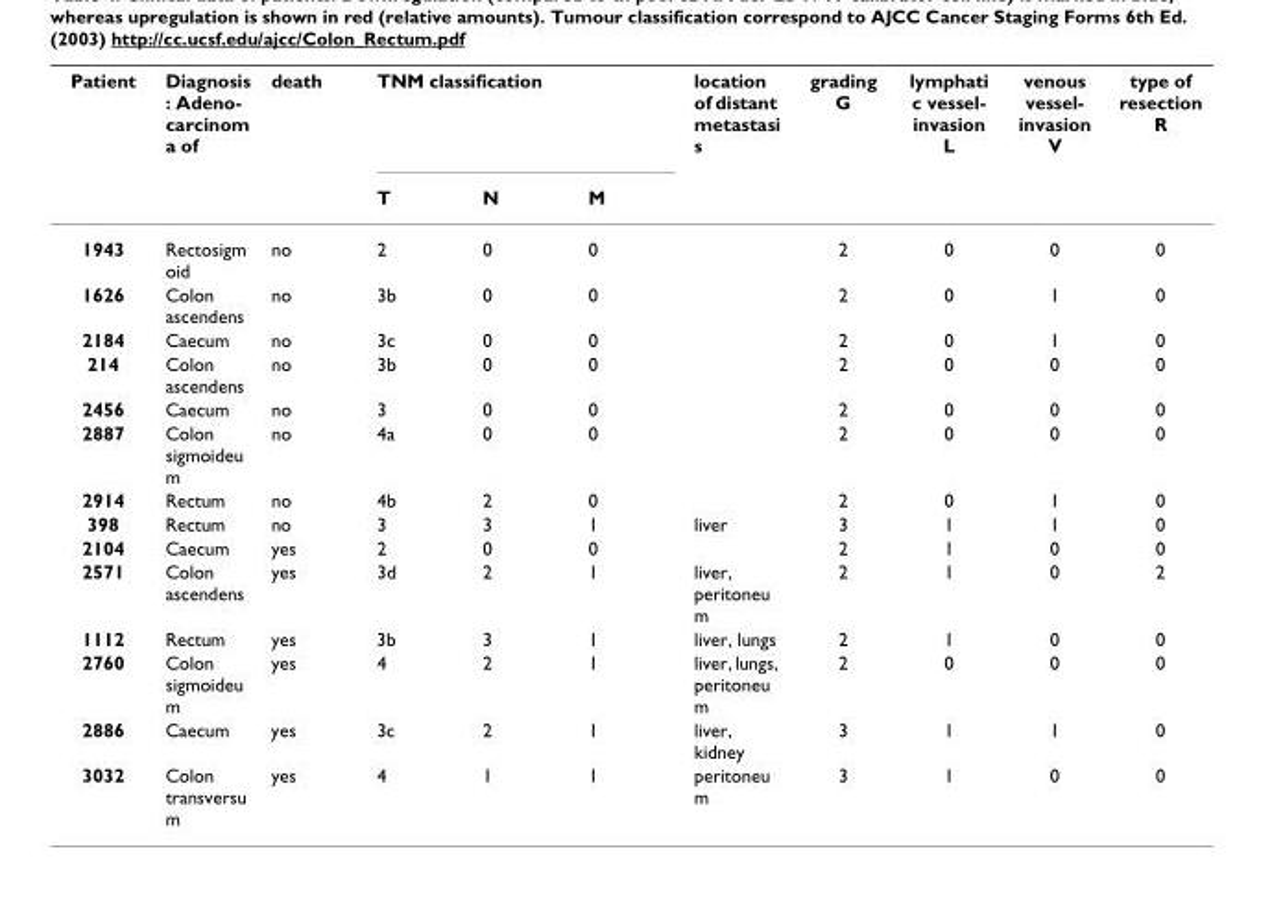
<table><thead><tr><td rowspan="2">Patient</td><td rowspan="2">Diagnosis : Adeno- carcinom a of</td><td rowspan="2">death</td><td colspan="3">TNM classification</td><td rowspan="2">location of distant metastasi s</td><td rowspan="2">grading G</td><td rowspan="2">lymphati c vessel- invasion L</td><td rowspan="2">venous vessel- invasion V</td><td rowspan="2">type of resection R</td></tr><tr><td>T</td><td>N</td><td>M</td></tr></thead><tbody><tr><td>1943</td><td>Rectosigm oid</td><td>no</td><td>2</td><td>0</td><td>0</td><td></td><td>2</td><td>0</td><td>0</td><td>0</td></tr><tr><td>1626</td><td>Colon ascendens</td><td>no</td><td>3b</td><td>0</td><td>0</td><td></td><td>2</td><td>0</td><td>1</td><td>0</td></tr><tr><td>2184</td><td>Caecum</td><td>no</td><td>3c</td><td>0</td><td>0</td><td></td><td>2</td><td>0</td><td>1</td><td>0</td></tr><tr><td>214</td><td>Colon ascendens</td><td>no</td><td>3b</td><td>0</td><td>0</td><td></td><td>2</td><td>0</td><td>0</td><td>0</td></tr><tr><td>2456</td><td>Caecum</td><td>no</td><td>3</td><td>0</td><td>0</td><td></td><td>2</td><td>0</td><td>0</td><td>0</td></tr><tr><td>2887</td><td>Colon sigmoideu m</td><td>no</td><td>4a</td><td>0</td><td>0</td><td></td><td>2</td><td>0</td><td>0</td><td>0</td></tr><tr><td>2914</td><td>Rectum</td><td>no</td><td>4b</td><td>2</td><td>0</td><td></td><td>2</td><td>0</td><td>1</td><td>0</td></tr><tr><td>398</td><td>Rectum</td><td>no</td><td>3</td><td>3</td><td>1</td><td>liver</td><td>3</td><td>1</td><td>1</td><td>0</td></tr><tr><td>2104</td><td>Caecum</td><td>yes</td><td>2</td><td>0</td><td>0</td><td></td><td>2</td><td>1</td><td>0</td><td>0</td></tr><tr><td>2571</td><td>Colon ascendens</td><td>yes</td><td>3d</td><td>2</td><td>1</td><td>liver, peritoneu m</td><td>2</td><td>1</td><td>0</td><td>2</td></tr><tr><td>1112</td><td>Rectum</td><td>yes</td><td>3b</td><td>3</td><td>1</td><td>liver, lungs</td><td>2</td><td>1</td><td>0</td><td>0</td></tr><tr><td>2760</td><td>Colon sigmoideu m</td><td>yes</td><td>4</td><td>2</td><td>1</td><td>liver, lungs, peritoneu m</td><td>2</td><td>0</td><td>0</td><td>0</td></tr><tr><td>2886</td><td>Caecum</td><td>yes</td><td>3c</td><td>2</td><td>1</td><td>liver, kidney</td><td>3</td><td>1</td><td>1</td><td>0</td></tr><tr><td>3032</td><td>Colon transversu m</td><td>yes</td><td>4</td><td>1</td><td>1</td><td>peritoneu m</td><td>3</td><td>1</td><td>0</td><td>0</td></tr></tbody></table>